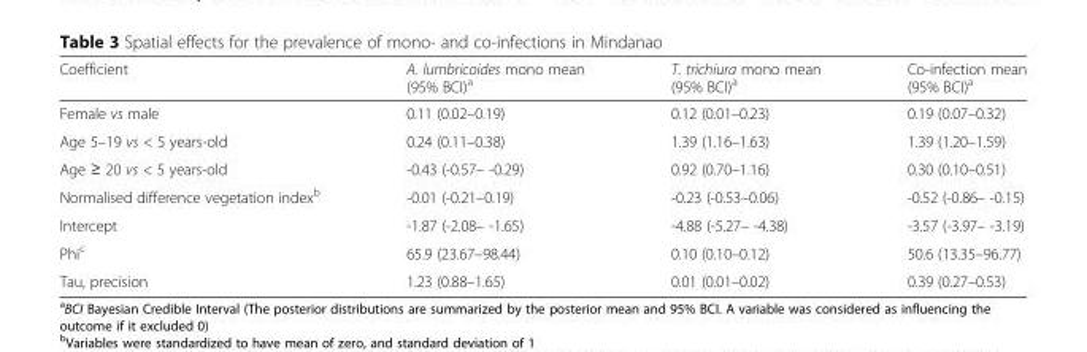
<table><thead><tr><td>Coefficient</td><td>A. lumbricoides mono mean (95% BCI)<sup>a</sup></td><td>T. trichiura mono mean (95% BCI)<sup>a</sup></td><td>Co-infection mean (95% BCI)<sup>a</sup></td></tr></thead><tbody><tr><td>Female vs male</td><td>0.11 (0.02–0.19)</td><td>0.12 (0.01–0.23)</td><td>0.19 (0.07–0.32)</td></tr><tr><td>Age 5–19 vs &lt; 5 years-old</td><td>0.24 (0.11–0.38)</td><td>1.39 (1.16–1.63)</td><td>1.39 (1.20–1.59)</td></tr><tr><td>Age ≥ 20 vs &lt; 5 years-old</td><td>-0.43 (-0.57– -0.29)</td><td>0.92 (0.70–1.16)</td><td>0.30 (0.10–0.51)</td></tr><tr><td>Normalised difference vegetation index<sup>b</sup></td><td>-0.01 (-0.21–0.19)</td><td>-0.23 (-0.53–0.06)</td><td>-0.52 (-0.86– -0.15)</td></tr><tr><td>Intercept</td><td>-1.87 (-2.08– -1.65)</td><td>-4.88 (-5.27– -4.38)</td><td>-3.57 (-3.97– -3.19)</td></tr><tr><td>Phi<sup>c</sup></td><td>65.9 (23.67–98.44)</td><td>0.10 (0.10–0.12)</td><td>50.6 (13.35–96.77)</td></tr><tr><td>Tau, precision</td><td>1.23 (0.88–1.65)</td><td>0.01 (0.01–0.02)</td><td>0.39 (0.27–0.53)</td></tr></tbody></table>